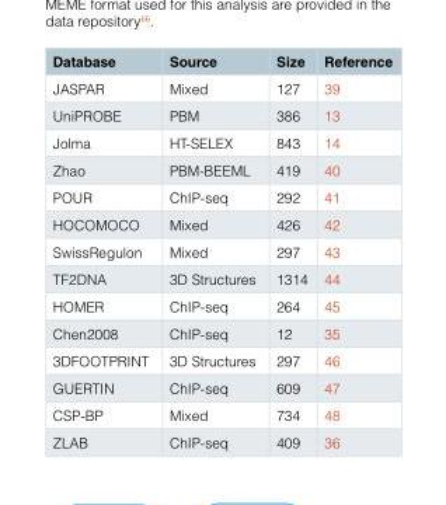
<table><thead><tr><td>Database</td><td>Source</td><td>Size</td><td>Reference</td></tr></thead><tbody><tr><td>JASPAR</td><td>Mixed</td><td>127</td><td>39</td></tr><tr><td>UniPROBE</td><td>PBM</td><td>386</td><td>13</td></tr><tr><td>Jolma</td><td>HT-SELEX</td><td>843</td><td>14</td></tr><tr><td>Zhao</td><td>PBM-BEEML</td><td>419</td><td>40</td></tr><tr><td>POUR</td><td>ChIP-seq</td><td>292</td><td>41</td></tr><tr><td>HOCOMOCO</td><td>Mixed</td><td>426</td><td>42</td></tr><tr><td>SwissRegulon</td><td>Mixed</td><td>297</td><td>43</td></tr><tr><td>TF2DNA</td><td>3D Structures</td><td>1314</td><td>44</td></tr><tr><td>HOMER</td><td>ChIP-seq</td><td>264</td><td>45</td></tr><tr><td>Chen2008</td><td>ChIP-seq</td><td>12</td><td>35</td></tr><tr><td>3DFOOTPRINT</td><td>3D Structures</td><td>297</td><td>46</td></tr><tr><td>GUERTIN</td><td>ChIP-seq</td><td>609</td><td>47</td></tr><tr><td>CSP-BP</td><td>Mixed</td><td>734</td><td>48</td></tr><tr><td>ZLAB</td><td>ChIP-seq</td><td>409</td><td>36</td></tr></tbody></table>